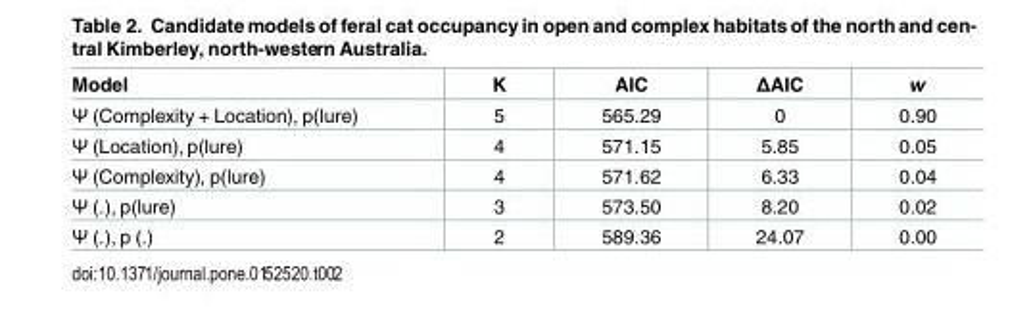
<table><thead><tr><td>Model</td><td>K</td><td>AIC</td><td>ΔAIC</td><td>w</td></tr></thead><tbody><tr><td>Ψ (Complexity + Location), p(lure)</td><td>5</td><td>565.29</td><td>0</td><td>0.90</td></tr><tr><td>Ψ (Location), p(lure)</td><td>4</td><td>571.15</td><td>5.85</td><td>0.05</td></tr><tr><td>Ψ (Complexity), p(lure)</td><td>4</td><td>571.62</td><td>6.33</td><td>0.04</td></tr><tr><td>Ψ (.), p(lure)</td><td>3</td><td>573.50</td><td>8.20</td><td>0.02</td></tr><tr><td>Ψ (.), p (.)</td><td>2</td><td>589.36</td><td>24.07</td><td>0.00</td></tr></tbody></table>